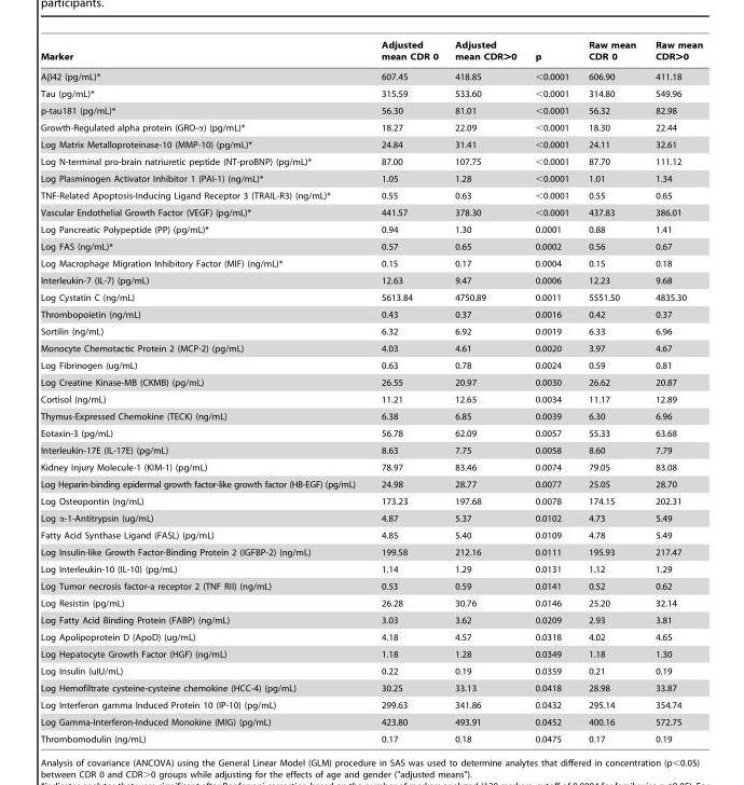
<table><thead><tr><td>Marker</td><td>Adjusted mean CDR 0</td><td>Adjusted mean CDR&gt;0</td><td>p</td><td>Raw mean CDR 0</td><td>Raw mean CDR&gt;0</td></tr></thead><tbody><tr><td>Aβ42 (pg/mL)*</td><td>607.45</td><td>418.85</td><td>&lt;0.0001</td><td>606.90</td><td>411.18</td></tr><tr><td>Tau (pg/mL)*</td><td>315.59</td><td>533.60</td><td>&lt;0.0001</td><td>314.80</td><td>549.96</td></tr><tr><td>p-tau181 (pg/mL)*</td><td>56.30</td><td>81.01</td><td>&lt;0.0001</td><td>56.32</td><td>82.98</td></tr><tr><td>Growth-Regulated alpha protein (GRO-α) (pg/mL)*</td><td>18.27</td><td>22.09</td><td>&lt;0.0001</td><td>18.30</td><td>22.44</td></tr><tr><td>Log Matrix Metalloproteinase-10 (MMP-10) (pg/mL)*</td><td>24.84</td><td>31.41</td><td>&lt;0.0001</td><td>24.11</td><td>32.61</td></tr><tr><td>Log N-terminal pro-brain natriuretic peptide (NT-proBNP) (pg/mL)*</td><td>87.00</td><td>107.75</td><td>&lt;0.0001</td><td>87.70</td><td>111.12</td></tr><tr><td>Log Plasminogen Activator Inhibitor 1 (PAI-1) (ng/mL)*</td><td>1.05</td><td>1.28</td><td>&lt;0.0001</td><td>1.01</td><td>1.34</td></tr><tr><td>TNF-Related Apoptosis-Inducing Ligand Receptor 3 (TRAIL-R3) (ng/mL)*</td><td>0.55</td><td>0.63</td><td>&lt;0.0001</td><td>0.55</td><td>0.65</td></tr><tr><td>Vascular Endothelial Growth Factor (VEGF) (pg/mL)*</td><td>441.57</td><td>378.30</td><td>&lt;0.0001</td><td>437.83</td><td>386.01</td></tr><tr><td>Log Pancreatic Polypeptide (PP) (pg/mL)*</td><td>0.94</td><td>1.30</td><td>0.0001</td><td>0.88</td><td>1.41</td></tr><tr><td>Log FAS (ng/mL)*</td><td>0.57</td><td>0.65</td><td>0.0002</td><td>0.56</td><td>0.67</td></tr><tr><td>Log Macrophage Migration Inhibitory Factor (MIF) (ng/mL)*</td><td>0.15</td><td>0.17</td><td>0.0004</td><td>0.15</td><td>0.18</td></tr><tr><td>Interleukin-7 (IL-7) (pg/mL)</td><td>12.63</td><td>9.47</td><td>0.0006</td><td>12.23</td><td>9.68</td></tr><tr><td>Log Cystatin C (ng/mL)</td><td>5613.84</td><td>4750.89</td><td>0.0011</td><td>5551.50</td><td>4835.30</td></tr><tr><td>Thrombopoietin (ng/mL)</td><td>0.43</td><td>0.37</td><td>0.0016</td><td>0.42</td><td>0.37</td></tr><tr><td>Sortilin (ng/mL)</td><td>6.32</td><td>6.92</td><td>0.0019</td><td>6.33</td><td>6.96</td></tr><tr><td>Monocyte Chemotactic Protein 2 (MCP-2) (pg/mL)</td><td>4.03</td><td>4.61</td><td>0.0020</td><td>3.97</td><td>4.67</td></tr><tr><td>Log Fibrinogen (ug/mL)</td><td>0.63</td><td>0.78</td><td>0.0024</td><td>0.59</td><td>0.81</td></tr><tr><td>Log Creatine Kinase-MB (CKMB) (pg/mL)</td><td>26.55</td><td>20.97</td><td>0.0030</td><td>26.62</td><td>20.87</td></tr><tr><td>Cortisol (ng/mL)</td><td>11.21</td><td>12.65</td><td>0.0034</td><td>11.17</td><td>12.89</td></tr><tr><td>Thymus-Expressed Chemokine (TECK) (ng/mL)</td><td>6.38</td><td>6.85</td><td>0.0039</td><td>6.30</td><td>6.96</td></tr><tr><td>Eotaxin-3 (pg/mL)</td><td>56.78</td><td>62.09</td><td>0.0057</td><td>55.33</td><td>63.68</td></tr><tr><td>Interleukin-17E (IL-17E) (pg/mL)</td><td>8.63</td><td>7.75</td><td>0.0058</td><td>8.60</td><td>7.79</td></tr><tr><td>Kidney Injury Molecule-1 (KIM-1) (pg/mL)</td><td>78.97</td><td>83.46</td><td>0.0074</td><td>79.05</td><td>83.08</td></tr><tr><td>Log Heparin-binding epidermal growth factor-like growth factor (HB-EGF) (pg/mL)</td><td>24.98</td><td>28.77</td><td>0.0077</td><td>25.05</td><td>28.70</td></tr><tr><td>Log Osteopontin (ng/mL)</td><td>173.23</td><td>197.68</td><td>0.0078</td><td>174.15</td><td>202.31</td></tr><tr><td>Log α-1-Antitrypsin (ug/mL)</td><td>4.87</td><td>5.37</td><td>0.0102</td><td>4.73</td><td>5.49</td></tr><tr><td>Fatty Acid Synthase Ligand (FASL) (pg/mL)</td><td>4.85</td><td>5.40</td><td>0.0109</td><td>4.78</td><td>5.49</td></tr><tr><td>Log Insulin-like Growth Factor-Binding Protein 2 (IGFBP-2) (ng/mL)</td><td>199.58</td><td>212.16</td><td>0.0111</td><td>195.93</td><td>217.47</td></tr><tr><td>Log Interleukin-10 (IL-10) (pg/mL)</td><td>1.14</td><td>1.29</td><td>0.0131</td><td>1.12</td><td>1.29</td></tr><tr><td>Log Tumor necrosis factor-a receptor 2 (TNF RII) (ng/mL)</td><td>0.53</td><td>0.59</td><td>0.0141</td><td>0.52</td><td>0.62</td></tr><tr><td>Log Resistin (pg/mL)</td><td>26.28</td><td>30.76</td><td>0.0146</td><td>25.20</td><td>32.14</td></tr><tr><td>Log Fatty Acid Binding Protein (FABP) (ng/mL)</td><td>3.03</td><td>3.62</td><td>0.0209</td><td>2.93</td><td>3.81</td></tr><tr><td>Log Apolipoprotein D (ApoD) (ug/mL)</td><td>4.18</td><td>4.57</td><td>0.0318</td><td>4.02</td><td>4.65</td></tr><tr><td>Log Hepatocyte Growth Factor (HGF) (ng/mL)</td><td>1.18</td><td>1.28</td><td>0.0349</td><td>1.18</td><td>1.30</td></tr><tr><td>Log Insulin (uIU/mL)</td><td>0.22</td><td>0.19</td><td>0.0359</td><td>0.21</td><td>0.19</td></tr><tr><td>Log Hemofiltrate cysteine-cysteine chemokine (HCC-4) (pg/mL)</td><td>30.25</td><td>33.13</td><td>0.0418</td><td>28.98</td><td>33.87</td></tr><tr><td>Log Interferon gamma Induced Protein 10 (IP-10) (pg/mL)</td><td>299.63</td><td>341.86</td><td>0.0432</td><td>295.14</td><td>354.74</td></tr><tr><td>Log Gamma-Interferon-Induced Monokine (MIG) (pg/mL)</td><td>423.80</td><td>493.91</td><td>0.0452</td><td>400.16</td><td>572.75</td></tr><tr><td>Thrombomodulin (ng/mL)</td><td>0.17</td><td>0.18</td><td>0.0475</td><td>0.17</td><td>0.19</td></tr></tbody></table>